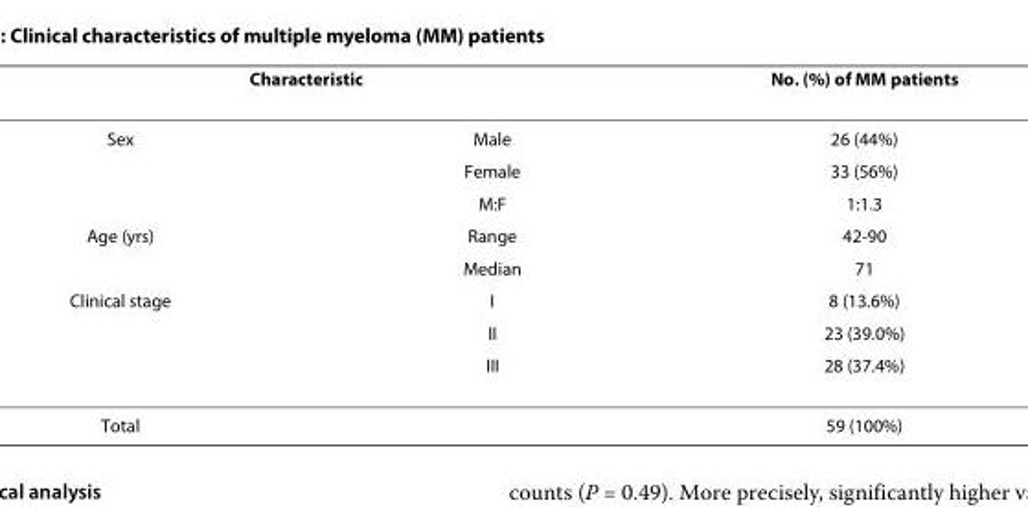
<table><thead><tr><td colspan="2">Characteristic</td><td rowspan="2">No. (%) of MM patients 26 (44%)</td></tr><tr><td>Sex</td><td>Male</td></tr></thead><tbody><tr><td></td><td>Female</td><td>33 (56%)</td></tr><tr><td></td><td>M:F</td><td>1:1.3</td></tr><tr><td rowspan="2">Age (yrs)</td><td>Range</td><td>42-90</td></tr><tr><td>Median</td><td>71</td></tr><tr><td rowspan="3">Clinical stage</td><td>I</td><td>8 (13.6%)</td></tr><tr><td>II</td><td>23 (39.0%)</td></tr><tr><td>III</td><td>28 (37.4%)</td></tr><tr><td>Total</td><td></td><td>59 (100%)</td></tr></tbody></table>